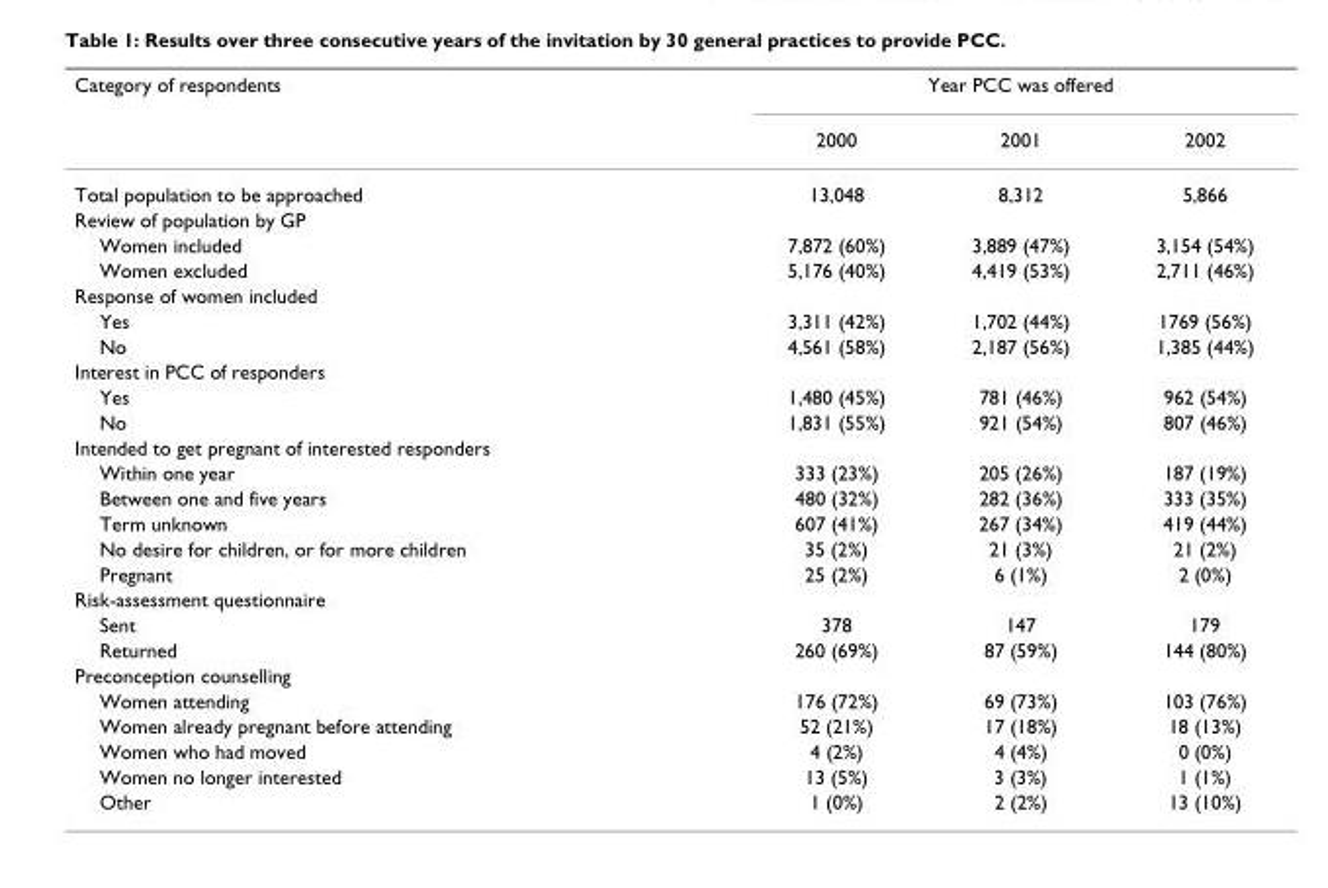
<table><thead><tr><td rowspan="2">Category of respondents</td><td colspan="3">Year PCC was offered</td></tr><tr><td>2000</td><td>2001</td><td>2002</td></tr></thead><tbody><tr><td>Total population to be approached</td><td>13,048</td><td>8,312</td><td>5,866</td></tr><tr><td colspan="4">Review of population by GP</td></tr><tr><td>Women included</td><td>7,872 (60%)</td><td>3,889 (47%)</td><td>3,154 (54%)</td></tr><tr><td>Women excluded</td><td>5,176 (40%)</td><td>4,419 (53%)</td><td>2,711 (46%)</td></tr><tr><td colspan="4">Response of women included</td></tr><tr><td>Yes</td><td>3,311 (42%)</td><td>1,702 (44%)</td><td>1769 (56%)</td></tr><tr><td>No</td><td>4,561 (58%)</td><td>2,187 (56%)</td><td>1,385 (44%)</td></tr><tr><td colspan="4">Interest in PCC of responders</td></tr><tr><td>Yes</td><td>1,480 (45%)</td><td>781 (46%)</td><td>962 (54%)</td></tr><tr><td>No</td><td>1,831 (55%)</td><td>921 (54%)</td><td>807 (46%)</td></tr><tr><td colspan="4">Intended to get pregnant of interested responders</td></tr><tr><td>Within one year</td><td>333 (23%)</td><td>205 (26%)</td><td>187 (19%)</td></tr><tr><td>Between one and five years</td><td>480 (32%)</td><td>282 (36%)</td><td>333 (35%)</td></tr><tr><td>Term unknown</td><td>607 (41%)</td><td>267 (34%)</td><td>419 (44%)</td></tr><tr><td>No desire for children, or for more children</td><td>35 (2%)</td><td>21 (3%)</td><td>21 (2%)</td></tr><tr><td>Pregnant</td><td>25 (2%)</td><td>6 (1%)</td><td>2 (0%)</td></tr><tr><td colspan="4">Risk-assessment questionnaire</td></tr><tr><td>Sent</td><td>378</td><td>147</td><td>179</td></tr><tr><td>Returned</td><td>260 (69%)</td><td>87 (59%)</td><td>144 (80%)</td></tr><tr><td colspan="4">Preconception counselling</td></tr><tr><td>Women attending</td><td>176 (72%)</td><td>69 (73%)</td><td>103 (76%)</td></tr><tr><td>Women already pregnant before attending</td><td>52 (21%)</td><td>17 (18%)</td><td>18 (13%)</td></tr><tr><td>Women who had moved</td><td>4 (2%)</td><td>4 (4%)</td><td>0 (0%)</td></tr><tr><td>Women no longer interested</td><td>13 (5%)</td><td>3 (3%)</td><td>1 (1%)</td></tr><tr><td>Other</td><td>1 (0%)</td><td>2 (2%)</td><td>13 (10%)</td></tr></tbody></table>